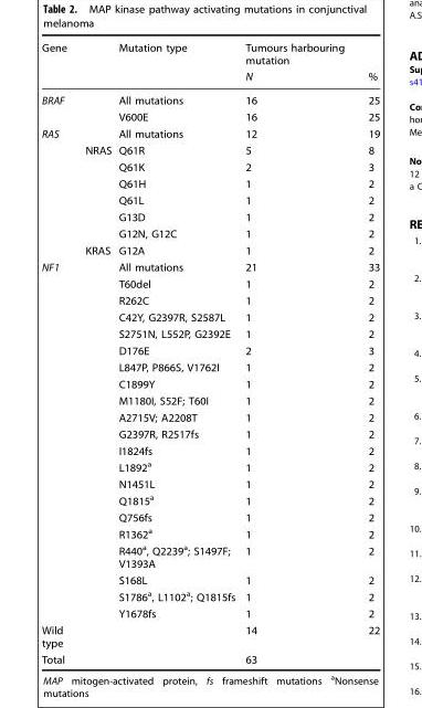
<table><thead><tr><td rowspan="2">Gene</td><td rowspan="2"></td><td rowspan="2">Mutation type</td><td rowspan="2">Tumours harbouring mutation N</td><td rowspan="2">%</td></tr><tr></tr></thead><tbody><tr><td rowspan="2">BRAF</td><td></td><td>All mutations</td><td>16</td><td>25</td></tr><tr><td></td><td>V600E</td><td>16</td><td>25</td></tr><tr><td rowspan="8">RAS</td><td></td><td>All mutations</td><td>12</td><td>19</td></tr><tr><td>NRAS</td><td>Q61R</td><td>5</td><td>8</td></tr><tr><td></td><td>Q61K</td><td>2</td><td>3</td></tr><tr><td></td><td>Q61H</td><td>1</td><td>2</td></tr><tr><td></td><td>Q61L</td><td>1</td><td>2</td></tr><tr><td></td><td>G13D</td><td>1</td><td>2</td></tr><tr><td></td><td>G12N, G12C</td><td>1</td><td>2</td></tr><tr><td>KRAS</td><td>G12A</td><td>1</td><td>2</td></tr><tr><td rowspan="21">NF1</td><td></td><td>All mutations</td><td>21</td><td>33</td></tr><tr><td></td><td>T60del</td><td>1</td><td>2</td></tr><tr><td></td><td>R262C</td><td>1</td><td>2</td></tr><tr><td></td><td>C42Y, G2397R, S2587L</td><td>1</td><td>2</td></tr><tr><td></td><td>S2751N, L552P, G2392E</td><td>1</td><td>2</td></tr><tr><td></td><td>D176E</td><td>2</td><td>3</td></tr><tr><td></td><td>L847P, P866S, V1762I</td><td>1</td><td>2</td></tr><tr><td></td><td>C1899Y</td><td>1</td><td>2</td></tr><tr><td></td><td>M1180I, S52F; T60I</td><td>1</td><td>2</td></tr><tr><td></td><td>A2715V; A2208T</td><td>1</td><td>2</td></tr><tr><td></td><td>G2397R, R2517fs</td><td>1</td><td>2</td></tr><tr><td></td><td>I1824fs</td><td>1</td><td>2</td></tr><tr><td></td><td>L1892<sup>a</sup></td><td>1</td><td>2</td></tr><tr><td></td><td>N1451L</td><td>1</td><td>2</td></tr><tr><td></td><td>Q1815<sup>a</sup></td><td>1</td><td>2</td></tr><tr><td></td><td>Q756fs</td><td>1</td><td>2</td></tr><tr><td></td><td>R1362<sup>a</sup></td><td>1</td><td>2</td></tr><tr><td></td><td>R440<sup>a</sup>, Q2239<sup>a</sup>; S1497F; V1393A</td><td>1</td><td>2</td></tr><tr><td></td><td>S168L</td><td>1</td><td>2</td></tr><tr><td></td><td>S1786<sup>a</sup>, L1102<sup>a</sup>; Q1815fs</td><td>1</td><td>2</td></tr><tr><td></td><td>Y1678fs</td><td>1</td><td>2</td></tr><tr><td>Wild type</td><td></td><td></td><td>14</td><td>22</td></tr><tr><td>Total</td><td></td><td></td><td>63</td><td></td></tr></tbody></table>